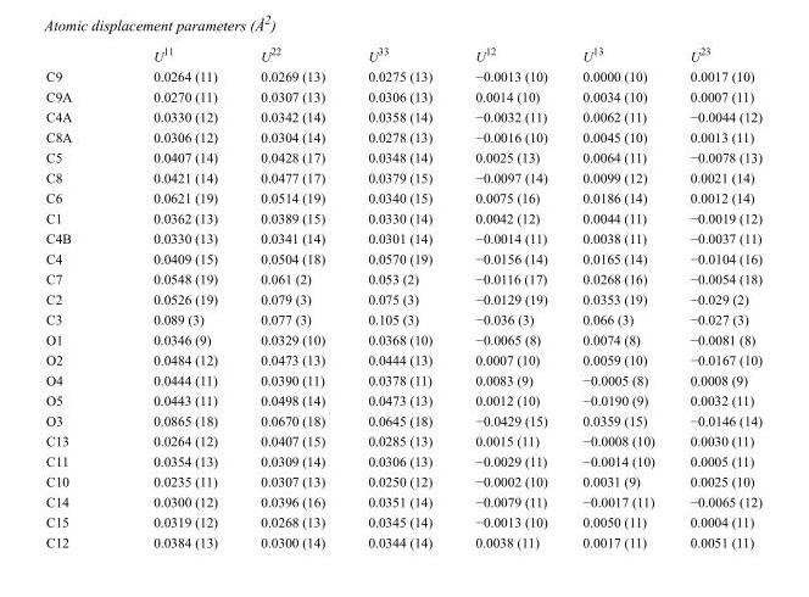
<table><thead><tr><td></td><td>U<sup>11</sup></td><td>U<sup>22</sup></td><td>U<sup>33</sup></td><td>U<sup>12</sup></td><td>U<sup>13</sup></td><td>U<sup>23</sup></td></tr></thead><tbody><tr><td>C9</td><td>0.0264 (11)</td><td>0.0269 (13)</td><td>0.0275 (13)</td><td>−0.0013 (10)</td><td>0.0000 (10)</td><td>0.0017 (10)</td></tr><tr><td>C9A</td><td>0.0270 (11)</td><td>0.0307 (13)</td><td>0.0306 (13)</td><td>0.0014 (10)</td><td>0.0034 (10)</td><td>0.0007 (11)</td></tr><tr><td>C4A</td><td>0.0330 (12)</td><td>0.0342 (14)</td><td>0.0358 (14)</td><td>−0.0032 (11)</td><td>0.0062 (11)</td><td>−0.0044 (12)</td></tr><tr><td>C8A</td><td>0.0306 (12)</td><td>0.0304 (14)</td><td>0.0278 (13)</td><td>−0.0016 (10)</td><td>0.0045 (10)</td><td>0.0013 (11)</td></tr><tr><td>C5</td><td>0.0407 (14)</td><td>0.0428 (17)</td><td>0.0348 (14)</td><td>0.0025 (13)</td><td>0.0064 (11)</td><td>−0.0078 (13)</td></tr><tr><td>C8</td><td>0.0421 (14)</td><td>0.0477 (17)</td><td>0.0379 (15)</td><td>−0.0097 (14)</td><td>0.0099 (12)</td><td>0.0021 (14)</td></tr><tr><td>C6</td><td>0.0621 (19)</td><td>0.0514 (19)</td><td>0.0340 (15)</td><td>0.0075 (16)</td><td>0.0186 (14)</td><td>0.0012 (14)</td></tr><tr><td>C1</td><td>0.0362 (13)</td><td>0.0389 (15)</td><td>0.0330 (14)</td><td>0.0042 (12)</td><td>0.0044 (11)</td><td>−0.0019 (12)</td></tr><tr><td>C4B</td><td>0.0330 (13)</td><td>0.0341 (14)</td><td>0.0301 (14)</td><td>−0.0014 (11)</td><td>0.0038 (11)</td><td>−0.0037 (11)</td></tr><tr><td>C4</td><td>0.0409 (15)</td><td>0.0504 (18)</td><td>0.0570 (19)</td><td>−0.0156 (14)</td><td>0.0165 (14)</td><td>−0.0104 (16)</td></tr><tr><td>C7</td><td>0.0548 (19)</td><td>0.061 (2)</td><td>0.053 (2)</td><td>−0.0116 (17)</td><td>0.0268 (16)</td><td>−0.0054 (18)</td></tr><tr><td>C2</td><td>0.0526 (19)</td><td>0.079 (3)</td><td>0.075 (3)</td><td>−0.0129 (19)</td><td>0.0353 (19)</td><td>−0.029 (2)</td></tr><tr><td>C3</td><td>0.089 (3)</td><td>0.077 (3)</td><td>0.105 (3)</td><td>−0.036 (3)</td><td>0.066 (3)</td><td>−0.027 (3)</td></tr><tr><td>O1</td><td>0.0346 (9)</td><td>0.0329 (10)</td><td>0.0368 (10)</td><td>−0.0065 (8)</td><td>0.0074 (8)</td><td>−0.0081 (8)</td></tr><tr><td>O2</td><td>0.0484 (12)</td><td>0.0473 (13)</td><td>0.0444 (13)</td><td>0.0007 (10)</td><td>0.0059 (10)</td><td>−0.0167 (10)</td></tr><tr><td>O4</td><td>0.0444 (11)</td><td>0.0390 (11)</td><td>0.0378 (11)</td><td>0.0083 (9)</td><td>−0.0005 (8)</td><td>0.0008 (9)</td></tr><tr><td>O5</td><td>0.0443 (11)</td><td>0.0498 (14)</td><td>0.0473 (13)</td><td>0.0012 (10)</td><td>−0.0190 (9)</td><td>0.0032 (11)</td></tr><tr><td>O3</td><td>0.0865 (18)</td><td>0.0670 (18)</td><td>0.0645 (18)</td><td>−0.0429 (15)</td><td>0.0359 (15)</td><td>−0.0146 (14)</td></tr><tr><td>C13</td><td>0.0264 (12)</td><td>0.0407 (15)</td><td>0.0285 (13)</td><td>0.0015 (11)</td><td>−0.0008 (10)</td><td>0.0030 (11)</td></tr><tr><td>C11</td><td>0.0354 (13)</td><td>0.0309 (14)</td><td>0.0306 (13)</td><td>−0.0029 (11)</td><td>−0.0014 (10)</td><td>0.0005 (11)</td></tr><tr><td>C10</td><td>0.0235 (11)</td><td>0.0307 (13)</td><td>0.0250 (12)</td><td>−0.0002 (10)</td><td>0.0031 (9)</td><td>0.0025 (10)</td></tr><tr><td>C14</td><td>0.0300 (12)</td><td>0.0396 (16)</td><td>0.0351 (14)</td><td>−0.0079 (11)</td><td>−0.0017 (11)</td><td>−0.0065 (12)</td></tr><tr><td>C15</td><td>0.0319 (12)</td><td>0.0268 (13)</td><td>0.0345 (14)</td><td>−0.0013 (10)</td><td>0.0050 (11)</td><td>0.0004 (11)</td></tr><tr><td>C12</td><td>0.0384 (13)</td><td>0.0300 (14)</td><td>0.0344 (14)</td><td>0.0038 (11)</td><td>0.0017 (11)</td><td>0.0051 (11)</td></tr></tbody></table>